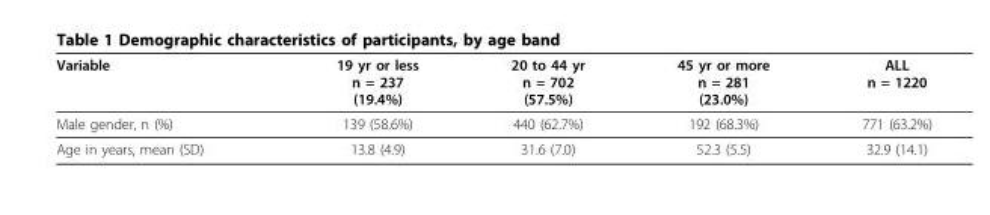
<table><thead><tr><td>Variable</td><td>19 yr or less n = 237 (19.4%)</td><td>20 to 44 yr n = 702 (57.5%)</td><td>45 yr or more n = 281 (23.0%)</td><td>ALL n = 1220</td></tr></thead><tbody><tr><td>Male gender, n (%)</td><td>139 (58.6%)</td><td>440 (62.7%)</td><td>192 (68.3%)</td><td>771 (63.2%)</td></tr><tr><td>Age in years, mean (SD)</td><td>13.8 (4.9)</td><td>31.6 (7.0)</td><td>52.3 (5.5)</td><td>32.9 (14.1)</td></tr></tbody></table>